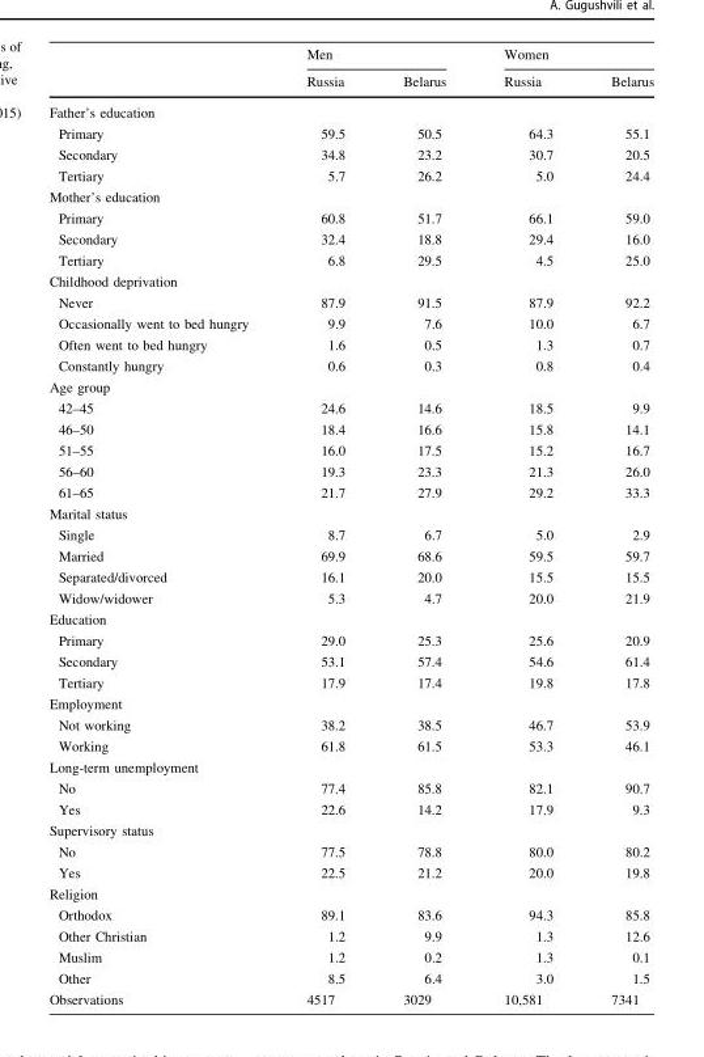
<table><thead><tr><td rowspan="2"></td><td colspan="2">Men</td><td colspan="2">Women</td></tr><tr><td>Russia</td><td>Belarus</td><td>Russia</td><td>Belarus</td></tr></thead><tbody><tr><td colspan="5">Father’s education</td></tr><tr><td>Primary</td><td>59.5</td><td>50.5</td><td>64.3</td><td>55.1</td></tr><tr><td>Secondary</td><td>34.8</td><td>23.2</td><td>30.7</td><td>20.5</td></tr><tr><td>Tertiary</td><td>5.7</td><td>26.2</td><td>5.0</td><td>24.4</td></tr><tr><td colspan="5">Mother’s education</td></tr><tr><td>Primary</td><td>60.8</td><td>51.7</td><td>66.1</td><td>59.0</td></tr><tr><td>Secondary</td><td>32.4</td><td>18.8</td><td>29.4</td><td>16.0</td></tr><tr><td>Tertiary</td><td>6.8</td><td>29.5</td><td>4.5</td><td>25.0</td></tr><tr><td colspan="5">Childhood deprivation</td></tr><tr><td>Never</td><td>87.9</td><td>91.5</td><td>87.9</td><td>92.2</td></tr><tr><td>Occasionally went to bed hungry</td><td>9.9</td><td>7.6</td><td>10.0</td><td>6.7</td></tr><tr><td>Often went to bed hungry</td><td>1.6</td><td>0.5</td><td>1.3</td><td>0.7</td></tr><tr><td>Constantly hungry</td><td>0.6</td><td>0.3</td><td>0.8</td><td>0.4</td></tr><tr><td colspan="5">Age group</td></tr><tr><td>42–45</td><td>24.6</td><td>14.6</td><td>18.5</td><td>9.9</td></tr><tr><td>46–50</td><td>18.4</td><td>16.6</td><td>15.8</td><td>14.1</td></tr><tr><td>51–55</td><td>16.0</td><td>17.5</td><td>15.2</td><td>16.7</td></tr><tr><td>56–60</td><td>19.3</td><td>23.3</td><td>21.3</td><td>26.0</td></tr><tr><td>61–65</td><td>21.7</td><td>27.9</td><td>29.2</td><td>33.3</td></tr><tr><td colspan="5">Marital status</td></tr><tr><td>Single</td><td>8.7</td><td>6.7</td><td>5.0</td><td>2.9</td></tr><tr><td>Married</td><td>69.9</td><td>68.6</td><td>59.5</td><td>59.7</td></tr><tr><td>Separated/divorced</td><td>16.1</td><td>20.0</td><td>15.5</td><td>15.5</td></tr><tr><td>Widow/widower</td><td>5.3</td><td>4.7</td><td>20.0</td><td>21.9</td></tr><tr><td colspan="5">Education</td></tr><tr><td>Primary</td><td>29.0</td><td>25.3</td><td>25.6</td><td>20.9</td></tr><tr><td>Secondary</td><td>53.1</td><td>57.4</td><td>54.6</td><td>61.4</td></tr><tr><td>Tertiary</td><td>17.9</td><td>17.4</td><td>19.8</td><td>17.8</td></tr><tr><td colspan="5">Employment</td></tr><tr><td>Not working</td><td>38.2</td><td>38.5</td><td>46.7</td><td>53.9</td></tr><tr><td>Working</td><td>61.8</td><td>61.5</td><td>53.3</td><td>46.1</td></tr><tr><td colspan="5">Long-term unemployment</td></tr><tr><td>No</td><td>77.4</td><td>85.8</td><td>82.1</td><td>90.7</td></tr><tr><td>Yes</td><td>22.6</td><td>14.2</td><td>17.9</td><td>9.3</td></tr><tr><td colspan="5">Supervisory status</td></tr><tr><td>No</td><td>77.5</td><td>78.8</td><td>80.0</td><td>80.2</td></tr><tr><td>Yes</td><td>22.5</td><td>21.2</td><td>20.0</td><td>19.8</td></tr><tr><td colspan="5">Religion</td></tr><tr><td>Orthodox</td><td>89.1</td><td>83.6</td><td>94.3</td><td>85.8</td></tr><tr><td>Other Christian</td><td>1.2</td><td>9.9</td><td>1.3</td><td>12.6</td></tr><tr><td>Muslim</td><td>1.2</td><td>0.2</td><td>1.3</td><td>0.1</td></tr><tr><td>Other</td><td>8.5</td><td>6.4</td><td>3.0</td><td>1.5</td></tr><tr><td>Observations</td><td>4517</td><td>3029</td><td>10,581</td><td>7341</td></tr></tbody></table>